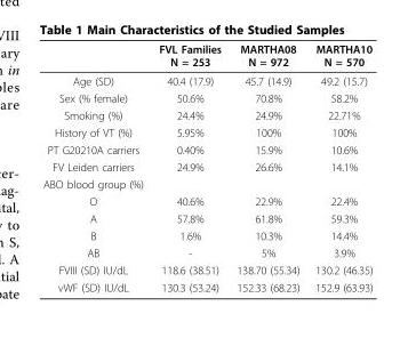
<table><thead><tr><td></td><td>FVL Families N = 253</td><td>MARTHA08 N = 972</td><td>MARTHA10 N = 570</td></tr></thead><tbody><tr><td>Age (SD)</td><td>40.4 (17.9)</td><td>45.7 (14.9)</td><td>49.2 (15.7)</td></tr><tr><td>Sex (% female)</td><td>50.6%</td><td>70.8%</td><td>58.2%</td></tr><tr><td>Smoking (%)</td><td>24.4%</td><td>24.9%</td><td>22.71%</td></tr><tr><td>History of VT (%)</td><td>5.95%</td><td>100%</td><td>100%</td></tr><tr><td>PT G20210A carriers</td><td>0.40%</td><td>15.9%</td><td>10.6%</td></tr><tr><td>FV Leiden carriers</td><td>24.9%</td><td>26.6%</td><td>14.1%</td></tr><tr><td colspan="4">ABO blood group (%)</td></tr><tr><td>O</td><td>40.6%</td><td>22.9%</td><td>22.4%</td></tr><tr><td>A</td><td>57.8%</td><td>61.8%</td><td>59.3%</td></tr><tr><td>B</td><td>1.6%</td><td>10.3%</td><td>14.4%</td></tr><tr><td>AB</td><td>-</td><td>5%</td><td>3.9%</td></tr><tr><td>FVIII (SD) IU/dL</td><td>118.6 (38.51)</td><td>138.70 (55.34)</td><td>130.2 (46.35)</td></tr><tr><td>vWF (SD) IU/dL</td><td>130.3 (53.24)</td><td>152.33 (68.23)</td><td>152.9 (63.93)</td></tr></tbody></table>